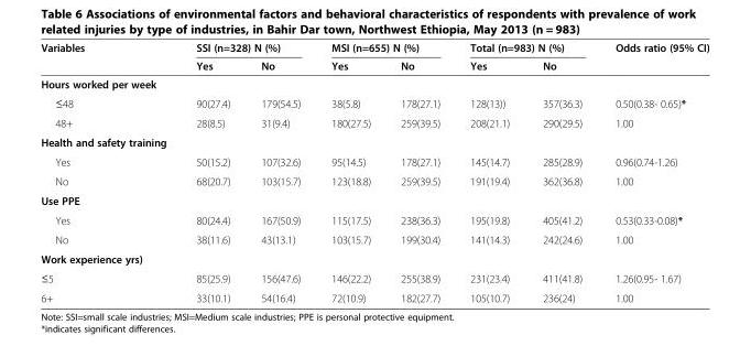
<table><thead><tr><td rowspan="2">Variables</td><td colspan="2">SSI (n=328) N (%)</td><td colspan="2">MSI (n=655) N (%)</td><td colspan="2">Total (n=983) N (%)</td><td rowspan="2">Odds ratio (95% CI)</td></tr><tr><td>Yes</td><td>No</td><td>Yes</td><td>No</td><td>Yes</td><td>No</td></tr></thead><tbody><tr><td colspan="8">Hours worked per week</td></tr><tr><td>≤48</td><td>90(27.4)</td><td>179(54.5)</td><td>38(5.8)</td><td>178(27.1)</td><td>128(13))</td><td>357(36.3)</td><td>0.50(0.38- 0.65)*</td></tr><tr><td>48+</td><td>28(8.5)</td><td>31(9.4)</td><td>180(27.5)</td><td>259(39.5)</td><td>208(21.1)</td><td>290(29.5)</td><td>1.00</td></tr><tr><td colspan="8">Health and safety training</td></tr><tr><td>Yes</td><td>50(15.2)</td><td>107(32.6)</td><td>95(14.5)</td><td>178(27.1)</td><td>145(14.7)</td><td>285(28.9)</td><td>0.96(0.74-1.26)</td></tr><tr><td>No</td><td>68(20.7)</td><td>103(15.7)</td><td>123(18.8)</td><td>259(39.5)</td><td>191(19.4)</td><td>362(36.8)</td><td>1.00</td></tr><tr><td colspan="8">Use PPE</td></tr><tr><td>Yes</td><td>80(24.4)</td><td>167(50.9)</td><td>115(17.5)</td><td>238(36.3)</td><td>195(19.8)</td><td>405(41.2)</td><td>0.53(0.33-0.08)*</td></tr><tr><td>No</td><td>38(11.6)</td><td>43(13.1)</td><td>103(15.7)</td><td>199(30.4)</td><td>141(14.3)</td><td>242(24.6)</td><td>1.00</td></tr><tr><td colspan="8">Work experience yrs)</td></tr><tr><td>≤5</td><td>85(25.9)</td><td>156(47.6)</td><td>146(22.2)</td><td>255(38.9)</td><td>231(23.4)</td><td>411(41.8)</td><td>1.26(0.95- 1.67)</td></tr><tr><td>6+</td><td>33(10.1)</td><td>54(16.4)</td><td>72(10.9)</td><td>182(27.7)</td><td>105(10.7)</td><td>236(24)</td><td>1.00</td></tr></tbody></table>